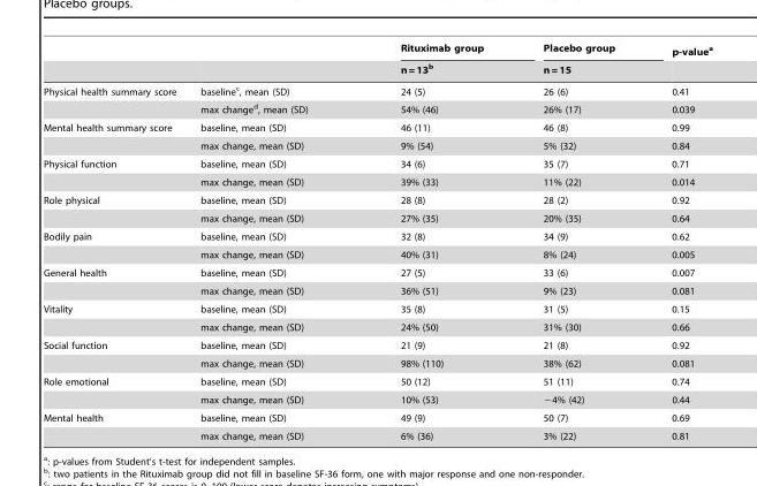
<table><thead><tr><td rowspan="2"></td><td rowspan="2"></td><td rowspan="2">Rituximab group n = 13<sup>b</sup></td><td rowspan="2">Placebo group n = 15</td><td rowspan="2">p-value<sup>a</sup></td></tr><tr></tr></thead><tbody><tr><td rowspan="2">Physical health summary score</td><td>baseline<sup>c</sup>, mean (SD)</td><td>24 (5)</td><td>26 (6)</td><td>0.41</td></tr><tr><td>max change<sup>d</sup>, mean (SD)</td><td>54% (46)</td><td>26% (17)</td><td>0.039</td></tr><tr><td rowspan="2">Mental health summary score</td><td>baseline, mean (SD)</td><td>46 (11)</td><td>46 (8)</td><td>0.99</td></tr><tr><td>max change, mean (SD)</td><td>9% (54)</td><td>5% (32)</td><td>0.84</td></tr><tr><td rowspan="2">Physical function</td><td>baseline, mean (SD)</td><td>34 (6)</td><td>35 (7)</td><td>0.71</td></tr><tr><td>max change, mean (SD)</td><td>39% (33)</td><td>11% (22)</td><td>0.014</td></tr><tr><td rowspan="2">Role physical</td><td>baseline, mean (SD)</td><td>28 (8)</td><td>28 (2)</td><td>0.92</td></tr><tr><td>max change, mean (SD)</td><td>27% (35)</td><td>20% (35)</td><td>0.64</td></tr><tr><td rowspan="2">Bodily pain</td><td>baseline, mean (SD)</td><td>32 (8)</td><td>34 (9)</td><td>0.62</td></tr><tr><td>max change, mean (SD)</td><td>40% (31)</td><td>8% (24)</td><td>0.005</td></tr><tr><td rowspan="2">General health</td><td>baseline, mean (SD)</td><td>27 (5)</td><td>33 (6)</td><td>0.007</td></tr><tr><td>max change, mean (SD)</td><td>36% (51)</td><td>9% (23)</td><td>0.081</td></tr><tr><td rowspan="2">Vitality</td><td>baseline, mean (SD)</td><td>35 (8)</td><td>31 (5)</td><td>0.15</td></tr><tr><td>max change, mean (SD)</td><td>24% (50)</td><td>31% (30)</td><td>0.66</td></tr><tr><td rowspan="2">Social function</td><td>baseline, mean (SD)</td><td>21 (9)</td><td>21 (8)</td><td>0.92</td></tr><tr><td>max change, mean (SD)</td><td>98% (110)</td><td>38% (62)</td><td>0.081</td></tr><tr><td rowspan="2">Role emotional</td><td>baseline, mean (SD)</td><td>50 (12)</td><td>51 (11)</td><td>0.74</td></tr><tr><td>max change, mean (SD)</td><td>10% (53)</td><td>−4% (42)</td><td>0.44</td></tr><tr><td rowspan="2">Mental health</td><td>baseline, mean (SD)</td><td>49 (9)</td><td>50 (7)</td><td>0.69</td></tr><tr><td>max change, mean (SD)</td><td>6% (36)</td><td>3% (22)</td><td>0.81</td></tr></tbody></table>